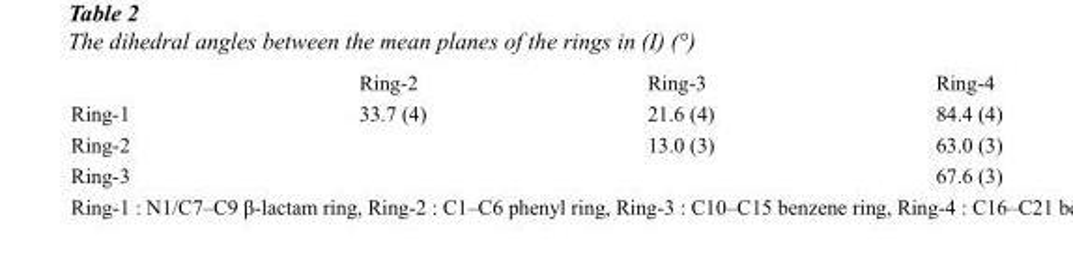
<table><thead><tr><td></td><td>Ring-2</td><td>Ring-3</td><td>Ring-4</td></tr></thead><tbody><tr><td>Ring-1</td><td>33.7 (4)</td><td>21.6 (4)</td><td>84.4 (4)</td></tr><tr><td>Ring-2</td><td></td><td>13.0 (3)</td><td>63.0 (3)</td></tr><tr><td>Ring-3</td><td></td><td></td><td>67.6 (3)</td></tr></tbody></table>